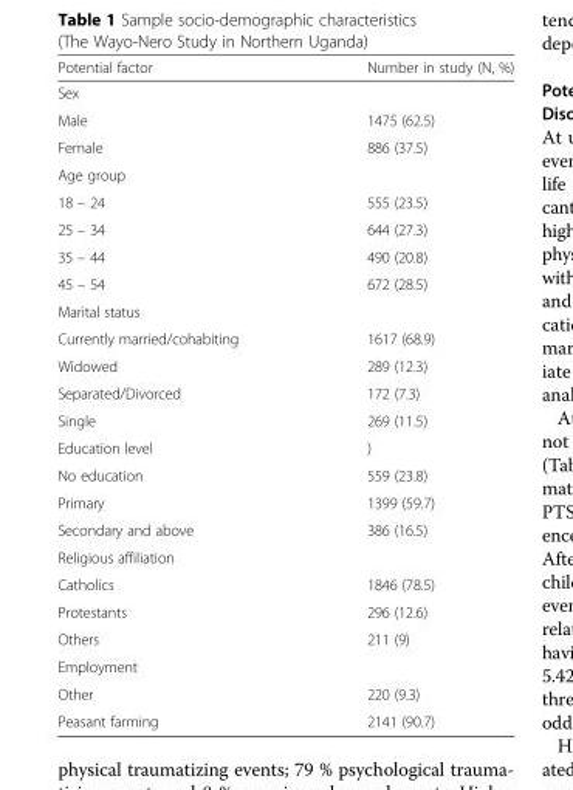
<table><thead><tr><td>Potential factor</td><td>Number in study (N, %)</td></tr></thead><tbody><tr><td colspan="2">Sex</td></tr><tr><td>Male</td><td>1475 (62.5)</td></tr><tr><td>Female</td><td>886 (37.5)</td></tr><tr><td colspan="2">Age group</td></tr><tr><td>18 – 24</td><td>555 (23.5)</td></tr><tr><td>25 – 34</td><td>644 (27.3)</td></tr><tr><td>35 – 44</td><td>490 (20.8)</td></tr><tr><td>45 – 54</td><td>672 (28.5)</td></tr><tr><td colspan="2">Marital status</td></tr><tr><td>Currently married/cohabiting</td><td>1617 (68.9)</td></tr><tr><td>Widowed</td><td>289 (12.3)</td></tr><tr><td>Separated/Divorced</td><td>172 (7.3)</td></tr><tr><td>Single</td><td>269 (11.5)</td></tr><tr><td>Education level</td><td>)</td></tr><tr><td>No education</td><td>559 (23.8)</td></tr><tr><td>Primary</td><td>1399 (59.7)</td></tr><tr><td>Secondary and above</td><td>386 (16.5)</td></tr><tr><td colspan="2">Religious affiliation</td></tr><tr><td>Catholics</td><td>1846 (78.5)</td></tr><tr><td>Protestants</td><td>296 (12.6)</td></tr><tr><td>Others</td><td>211 (9)</td></tr><tr><td colspan="2">Employment</td></tr><tr><td>Other</td><td>220 (9.3)</td></tr><tr><td>Peasant farming</td><td>2141 (90.7)</td></tr></tbody></table>